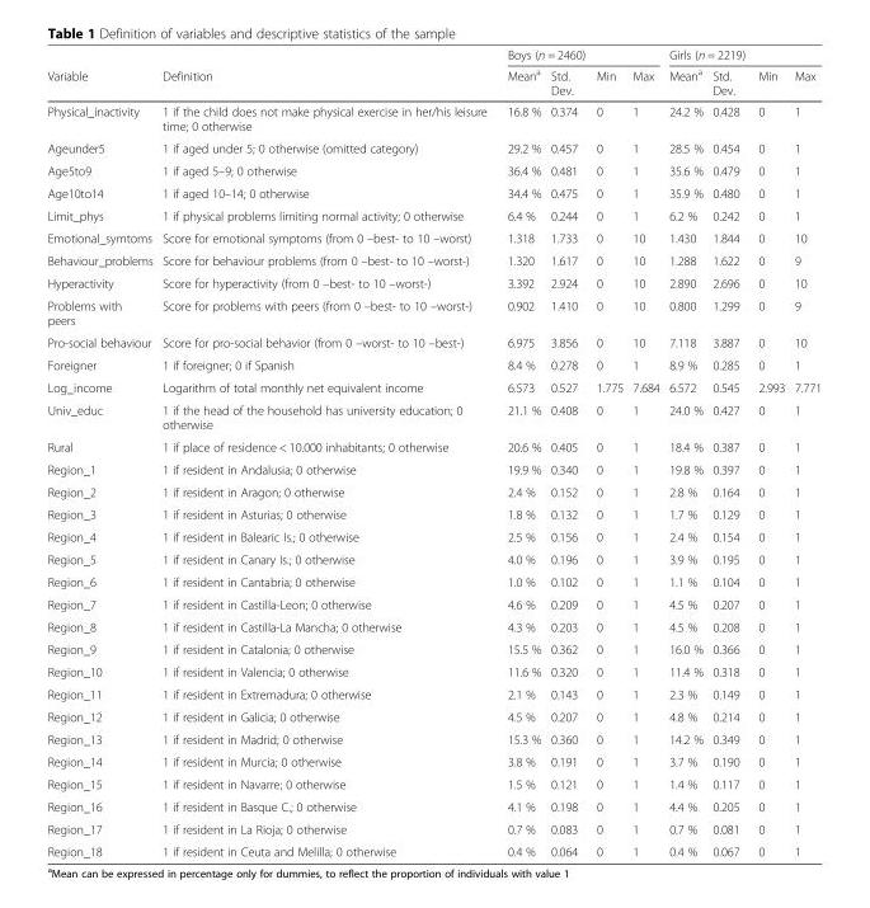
<table><thead><tr><td rowspan="2">Variable</td><td rowspan="2">Definition</td><td colspan="4">Boys (n = 2460)</td><td colspan="4">Girls (n = 2219)</td></tr><tr><td>Mean<sup>a</sup></td><td>Std. Dev.</td><td>Min</td><td>Max</td><td>Mean<sup>a</sup></td><td>Std. Dev.</td><td>Min</td><td>Max</td></tr></thead><tbody><tr><td>Physical_inactivity</td><td>1 if the child does not make physical exercise in her/his leisure time; 0 otherwise</td><td>16.8 %</td><td>0.374</td><td>0</td><td>1</td><td>24.2 %</td><td>0.428</td><td>0</td><td>1</td></tr><tr><td>Ageunder5</td><td>1 if aged under 5; 0 otherwise (omitted category)</td><td>29.2 %</td><td>0.457</td><td>0</td><td>1</td><td>28.5 %</td><td>0.454</td><td>0</td><td>1</td></tr><tr><td>Age5to9</td><td>1 if aged 5–9; 0 otherwise</td><td>36.4 %</td><td>0.481</td><td>0</td><td>1</td><td>35.6 %</td><td>0.479</td><td>0</td><td>1</td></tr><tr><td>Age10to14</td><td>1 if aged 10–14; 0 otherwise</td><td>34.4 %</td><td>0.475</td><td>0</td><td>1</td><td>35.9 %</td><td>0.480</td><td>0</td><td>1</td></tr><tr><td>Limit_phys</td><td>1 if physical problems limiting normal activity; 0 otherwise</td><td>6.4 %</td><td>0.244</td><td>0</td><td>1</td><td>6.2 %</td><td>0.242</td><td>0</td><td>1</td></tr><tr><td>Emotional_symtoms</td><td>Score for emotional symptoms (from 0 –best- to 10 –worst)</td><td>1.318</td><td>1.733</td><td>0</td><td>10</td><td>1.430</td><td>1.844</td><td>0</td><td>10</td></tr><tr><td>Behaviour_problems</td><td>Score for behaviour problems (from 0 –best- to 10 –worst-)</td><td>1.320</td><td>1.617</td><td>0</td><td>10</td><td>1.288</td><td>1.622</td><td>0</td><td>9</td></tr><tr><td>Hyperactivity</td><td>Score for hyperactivity (from 0 –best- to 10 –worst-)</td><td>3.392</td><td>2.924</td><td>0</td><td>10</td><td>2.890</td><td>2.696</td><td>0</td><td>10</td></tr><tr><td>Problems with peers</td><td>Score for problems with peers (from 0 –best- to 10 –worst-)</td><td>0.902</td><td>1.410</td><td>0</td><td>10</td><td>0.800</td><td>1.299</td><td>0</td><td>9</td></tr><tr><td>Pro-social behaviour</td><td>Score for pro-social behavior (from 0 –worst- to 10 –best-)</td><td>6.975</td><td>3.856</td><td>0</td><td>10</td><td>7.118</td><td>3.887</td><td>0</td><td>10</td></tr><tr><td>Foreigner</td><td>1 if foreigner; 0 if Spanish</td><td>8.4 %</td><td>0.278</td><td>0</td><td>1</td><td>8.9 %</td><td>0.285</td><td>0</td><td>1</td></tr><tr><td>Log_income</td><td>Logarithm of total monthly net equivalent income</td><td>6.573</td><td>0.527</td><td>1.775</td><td>7.684</td><td>6.572</td><td>0.545</td><td>2.993</td><td>7.771</td></tr><tr><td>Univ_educ</td><td>1 if the head of the household has university education; 0 otherwise</td><td>21.1 %</td><td>0.408</td><td>0</td><td>1</td><td>24.0 %</td><td>0.427</td><td>0</td><td>1</td></tr><tr><td>Rural</td><td>1 if place of residence &lt; 10.000 inhabitants; 0 otherwise</td><td>20.6 %</td><td>0.405</td><td>0</td><td>1</td><td>18.4 %</td><td>0.387</td><td>0</td><td>1</td></tr><tr><td>Region_1</td><td>1 if resident in Andalusia; 0 otherwise</td><td>19.9 %</td><td>0.340</td><td>0</td><td>1</td><td>19.8 %</td><td>0.397</td><td>0</td><td>1</td></tr><tr><td>Region_2</td><td>1 if resident in Aragon; 0 otherwise</td><td>2.4 %</td><td>0.152</td><td>0</td><td>1</td><td>2.8 %</td><td>0.164</td><td>0</td><td>1</td></tr><tr><td>Region_3</td><td>1 if resident in Asturias; 0 otherwise</td><td>1.8 %</td><td>0.132</td><td>0</td><td>1</td><td>1.7 %</td><td>0.129</td><td>0</td><td>1</td></tr><tr><td>Region_4</td><td>1 if resident in Balearic Is.; 0 otherwise</td><td>2.5 %</td><td>0.156</td><td>0</td><td>1</td><td>2.4 %</td><td>0.154</td><td>0</td><td>1</td></tr><tr><td>Region_5</td><td>1 if resident in Canary Is.; 0 otherwise</td><td>4.0 %</td><td>0.196</td><td>0</td><td>1</td><td>3.9 %</td><td>0.195</td><td>0</td><td>1</td></tr><tr><td>Region_6</td><td>1 if resident in Cantabria; 0 otherwise</td><td>1.0 %</td><td>0.102</td><td>0</td><td>1</td><td>1.1 %</td><td>0.104</td><td>0</td><td>1</td></tr><tr><td>Region_7</td><td>1 if resident in Castilla-Leon; 0 otherwise</td><td>4.6 %</td><td>0.209</td><td>0</td><td>1</td><td>4.5 %</td><td>0.207</td><td>0</td><td>1</td></tr><tr><td>Region_8</td><td>1 if resident in Castilla-La Mancha; 0 otherwise</td><td>4.3 %</td><td>0.203</td><td>0</td><td>1</td><td>4.5 %</td><td>0.208</td><td>0</td><td>1</td></tr><tr><td>Region_9</td><td>1 if resident in Catalonia; 0 otherwise</td><td>15.5 %</td><td>0.362</td><td>0</td><td>1</td><td>16.0 %</td><td>0.366</td><td>0</td><td>1</td></tr><tr><td>Region_10</td><td>1 if resident in Valencia; 0 otherwise</td><td>11.6 %</td><td>0.320</td><td>0</td><td>1</td><td>11.4 %</td><td>0.318</td><td>0</td><td>1</td></tr><tr><td>Region_11</td><td>1 if resident in Extremadura; 0 otherwise</td><td>2.1 %</td><td>0.143</td><td>0</td><td>1</td><td>2.3 %</td><td>0.149</td><td>0</td><td>1</td></tr><tr><td>Region_12</td><td>1 if resident in Galicia; 0 otherwise</td><td>4.5 %</td><td>0.207</td><td>0</td><td>1</td><td>4.8 %</td><td>0.214</td><td>0</td><td>1</td></tr><tr><td>Region_13</td><td>1 if resident in Madrid; 0 otherwise</td><td>15.3 %</td><td>0.360</td><td>0</td><td>1</td><td>14.2 %</td><td>0.349</td><td>0</td><td>1</td></tr><tr><td>Region_14</td><td>1 if resident in Murcia; 0 otherwise</td><td>3.8 %</td><td>0.191</td><td>0</td><td>1</td><td>3.7 %</td><td>0.190</td><td>0</td><td>1</td></tr><tr><td>Region_15</td><td>1 if resident in Navarre; 0 otherwise</td><td>1.5 %</td><td>0.121</td><td>0</td><td>1</td><td>1.4 %</td><td>0.117</td><td>0</td><td>1</td></tr><tr><td>Region_16</td><td>1 if resident in Basque C.; 0 otherwise</td><td>4.1 %</td><td>0.198</td><td>0</td><td>1</td><td>4.4 %</td><td>0.205</td><td>0</td><td>1</td></tr><tr><td>Region_17</td><td>1 if resident in La Rioja; 0 otherwise</td><td>0.7 %</td><td>0.083</td><td>0</td><td>1</td><td>0.7 %</td><td>0.081</td><td>0</td><td>1</td></tr><tr><td>Region_18</td><td>1 if resident in Ceuta and Melilla; 0 otherwise</td><td>0.4 %</td><td>0.064</td><td>0</td><td>1</td><td>0.4 %</td><td>0.067</td><td>0</td><td>1</td></tr></tbody></table>